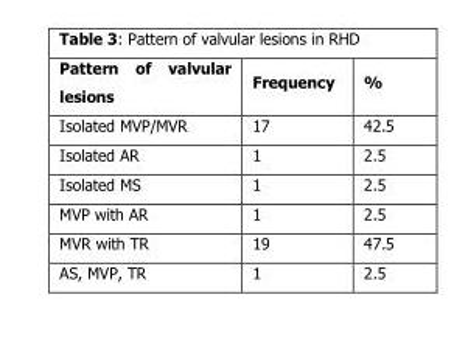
<table><thead><tr><td>Pattern of valvular lesions</td><td>Frequency</td><td>%</td></tr></thead><tbody><tr><td>Isolated MVP/MVR</td><td>17</td><td>42.5</td></tr><tr><td>Isolated AR</td><td>1</td><td>2.5</td></tr><tr><td>Isolated MS</td><td>1</td><td>2.5</td></tr><tr><td>MVP with AR</td><td>1</td><td>2.5</td></tr><tr><td>MVR with TR</td><td>19</td><td>47.5</td></tr><tr><td>AS, MVP, TR</td><td>1</td><td>2.5</td></tr></tbody></table>